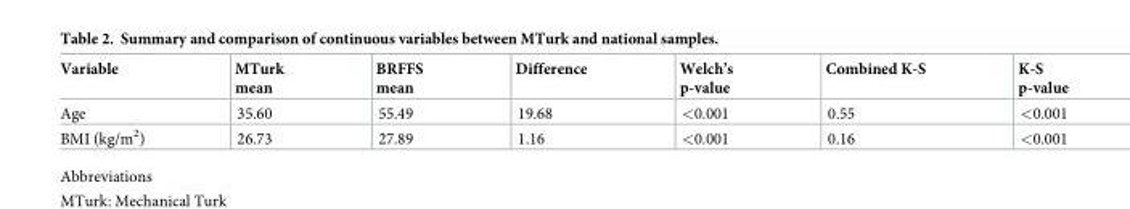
<table><thead><tr><td>Variable</td><td>MTurk mean</td><td>BRFFS mean</td><td>Difference</td><td>Welch’s p-value</td><td>Combined K-S</td><td>K-S p-value</td></tr></thead><tbody><tr><td>Age</td><td>35.60</td><td>55.49</td><td>19.68</td><td>&lt;0.001</td><td>0.55</td><td>&lt;0.001</td></tr><tr><td>BMI (kg/m<sup>2</sup>)</td><td>26.73</td><td>27.89</td><td>1.16</td><td>&lt;0.001</td><td>0.16</td><td>&lt;0.001</td></tr></tbody></table>